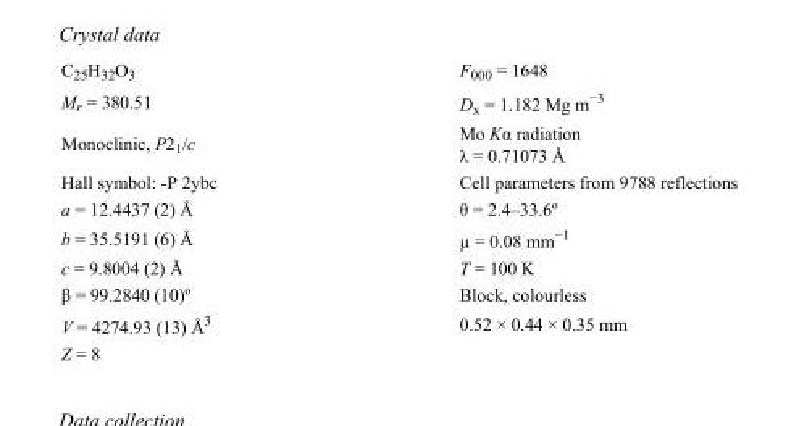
<table><tbody><tr><td>C<sub>25</sub>H<sub>32</sub>O<sub>3</sub></td><td>F000 = 1648</td></tr><tr><td>M<sub>r</sub> = 380.51</td><td>D<sub>x</sub> = 1.182 Mg m<sup>−3</sup></td></tr><tr><td>Monoclinic, P2<sub>1</sub>/c</td><td>Mo Kα radiation λ = 0.71073 Å</td></tr><tr><td>Hall symbol: -P 2ybc</td><td>Cell parameters from 9788 reflections</td></tr><tr><td>a = 12.4437 (2) Å</td><td>θ = 2.4–33.6º</td></tr><tr><td>b = 35.5191 (6) Å</td><td>µ = 0.08 mm<sup>−1</sup></td></tr><tr><td>c = 9.8004 (2) Å</td><td>T = 100 K</td></tr><tr><td>β = 99.2840 (10)º</td><td>Block, colourless</td></tr><tr><td>V = 4274.93 (13) Å<sup>3</sup></td><td>0.52 × 0.44 × 0.35 mm</td></tr><tr><td>Z = 8</td><td></td></tr></tbody></table>